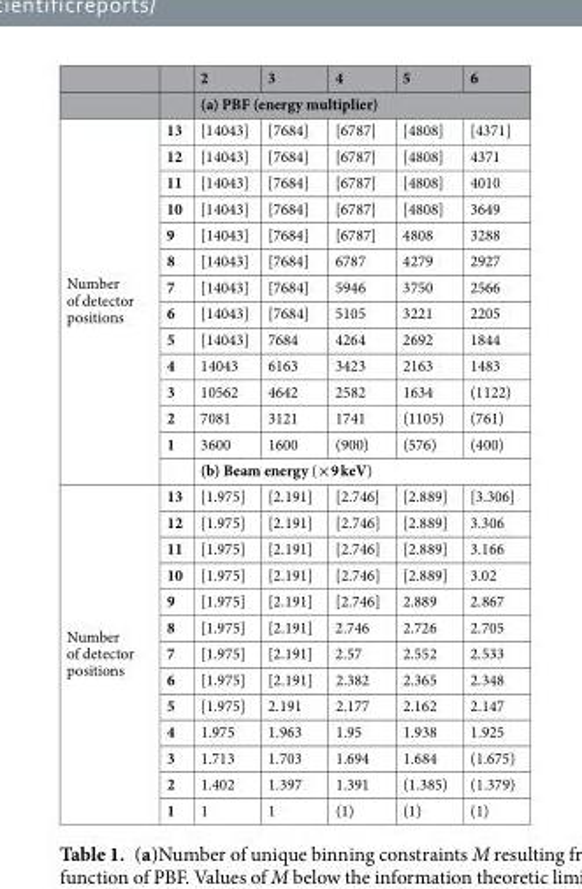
<table><thead><tr><td rowspan="2"></td><td rowspan="2"></td><td>2</td><td>3</td><td>4</td><td>5</td><td>6</td></tr><tr><td colspan="5">(a) PBF (energy multiplier)</td></tr></thead><tbody><tr><td rowspan="14">Number of detector positions</td><td>13</td><td>[14043]</td><td>[7684]</td><td>[6787]</td><td>[4808]</td><td>[4371]</td></tr><tr><td>12</td><td>[14043]</td><td>[7684]</td><td>[6787]</td><td>[4808]</td><td>4371</td></tr><tr><td>11</td><td>[14043]</td><td>[7684]</td><td>[6787]</td><td>[4808]</td><td>4010</td></tr><tr><td>10</td><td>[14043]</td><td>[7684]</td><td>[6787]</td><td>[4808]</td><td>3649</td></tr><tr><td>9</td><td>[14043]</td><td>[7684]</td><td>[6787]</td><td>4808</td><td>3288</td></tr><tr><td>8</td><td>[14043]</td><td>[7684]</td><td>6787</td><td>4279</td><td>2927</td></tr><tr><td>7</td><td>[14043]</td><td>[7684]</td><td>5946</td><td>3750</td><td>2566</td></tr><tr><td>6</td><td>[14043]</td><td>[7684]</td><td>5105</td><td>3221</td><td>2205</td></tr><tr><td>5</td><td>[14043]</td><td>7684</td><td>4264</td><td>2692</td><td>1844</td></tr><tr><td>4</td><td>14043</td><td>6163</td><td>3423</td><td>2163</td><td>1483</td></tr><tr><td>3</td><td>10562</td><td>4642</td><td>2582</td><td>1634</td><td>(1122)</td></tr><tr><td>2</td><td>7081</td><td>3121</td><td>1741</td><td>(1105)</td><td>(761)</td></tr><tr><td>1</td><td>3600</td><td>1600</td><td>(900)</td><td>(576)</td><td>(400)</td></tr><tr><td></td><td colspan="5">(b) Beam energy (×9 keV)</td></tr><tr><td rowspan="13">Number of detector positions</td><td>13</td><td>[1.975]</td><td>[2.191]</td><td>[2.746]</td><td>[2.889]</td><td>[3.306]</td></tr><tr><td>12</td><td>[1.975]</td><td>[2.191]</td><td>[2.746]</td><td>[2.889]</td><td>3.306</td></tr><tr><td>11</td><td>[1.975]</td><td>[2.191]</td><td>[2.746]</td><td>[2.889]</td><td>3.166</td></tr><tr><td>10</td><td>[1.975]</td><td>[2.191]</td><td>[2.746]</td><td>[2.889]</td><td>3.02</td></tr><tr><td>9</td><td>[1.975]</td><td>[2.191]</td><td>[2.746]</td><td>2.889</td><td>2.867</td></tr><tr><td>8</td><td>[1.975]</td><td>[2.191]</td><td>2.746</td><td>2.726</td><td>2.705</td></tr><tr><td>7</td><td>[1.975]</td><td>[2.191]</td><td>2.57</td><td>2.552</td><td>2.533</td></tr><tr><td>6</td><td>[1.975]</td><td>[2.191]</td><td>2.382</td><td>2.365</td><td>2.348</td></tr><tr><td>5</td><td>[1.975]</td><td>2.191</td><td>2.177</td><td>2.162</td><td>2.147</td></tr><tr><td>4</td><td>1.975</td><td>1.963</td><td>1.95</td><td>1.938</td><td>1.925</td></tr><tr><td>3</td><td>1.713</td><td>1.703</td><td>1.694</td><td>1.684</td><td>(1.675)</td></tr><tr><td>2</td><td>1.402</td><td>1.397</td><td>1.391</td><td>(1.385)</td><td>(1.379)</td></tr><tr><td>1</td><td>1</td><td>1</td><td>(1)</td><td>(1)</td><td>(1)</td></tr></tbody></table>